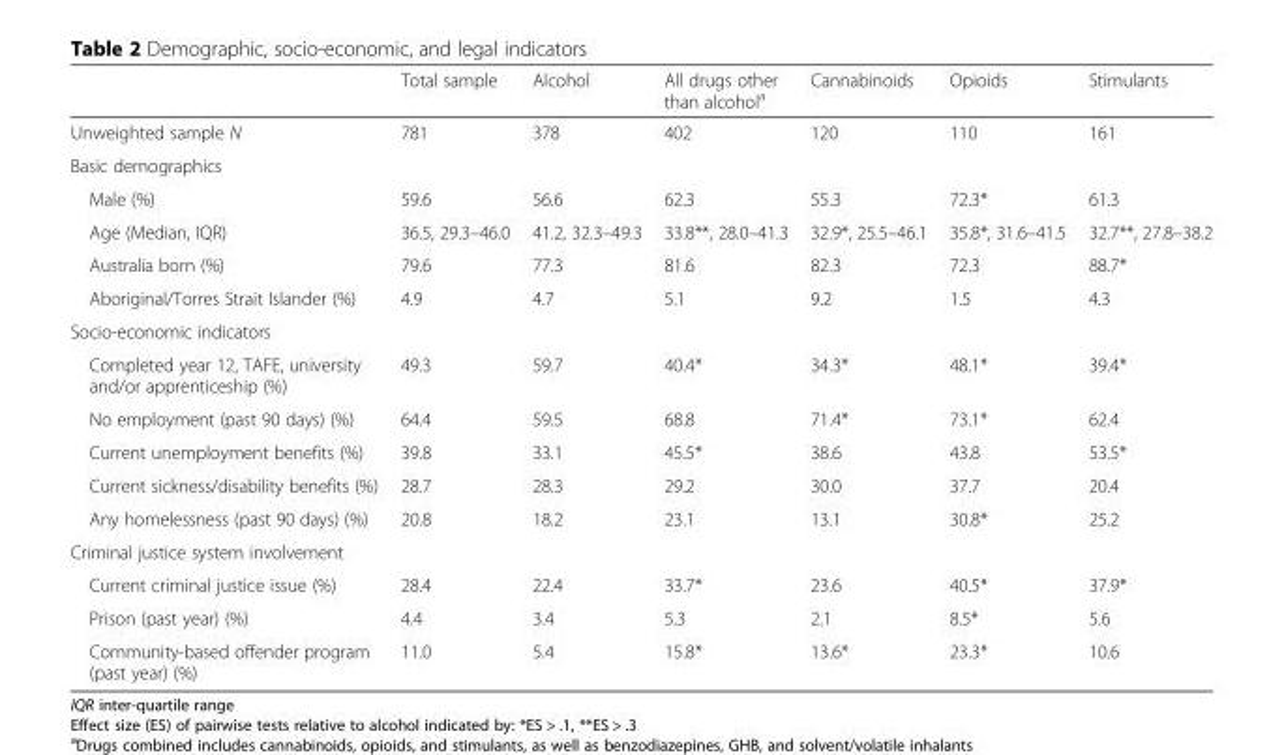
<table><thead><tr><td></td><td>Total sample</td><td>Alcohol</td><td>All drugs other than alcohol<sup>a</sup></td><td>Cannabinoids</td><td>Opioids</td><td>Stimulants</td></tr></thead><tbody><tr><td>Unweighted sample N</td><td>781</td><td>378</td><td>402</td><td>120</td><td>110</td><td>161</td></tr><tr><td colspan="7">Basic demographics</td></tr><tr><td>Male (%)</td><td>59.6</td><td>56.6</td><td>62.3</td><td>55.3</td><td>72.3*</td><td>61.3</td></tr><tr><td>Age (Median, IQR)</td><td>36.5, 29.3–46.0</td><td>41.2, 32.3–49.3</td><td>33.8**, 28.0–41.3</td><td>32.9*, 25.5–46.1</td><td>35.8*, 31.6–41.5</td><td>32.7**, 27.8–38.2</td></tr><tr><td>Australia born (%)</td><td>79.6</td><td>77.3</td><td>81.6</td><td>82.3</td><td>72.3</td><td>88.7*</td></tr><tr><td>Aboriginal/Torres Strait Islander (%)</td><td>4.9</td><td>4.7</td><td>5.1</td><td>9.2</td><td>1.5</td><td>4.3</td></tr><tr><td colspan="7">Socio-economic indicators</td></tr><tr><td>Completed year 12, TAFE, university and/or apprenticeship (%)</td><td>49.3</td><td>59.7</td><td>40.4*</td><td>34.3*</td><td>48.1*</td><td>39.4*</td></tr><tr><td>No employment (past 90 days) (%)</td><td>64.4</td><td>59.5</td><td>68.8</td><td>71.4*</td><td>73.1*</td><td>62.4</td></tr><tr><td>Current unemployment benefits (%)</td><td>39.8</td><td>33.1</td><td>45.5*</td><td>38.6</td><td>43.8</td><td>53.5*</td></tr><tr><td>Current sickness/disability benefits (%)</td><td>28.7</td><td>28.3</td><td>29.2</td><td>30.0</td><td>37.7</td><td>20.4</td></tr><tr><td>Any homelessness (past 90 days) (%)</td><td>20.8</td><td>18.2</td><td>23.1</td><td>13.1</td><td>30.8*</td><td>25.2</td></tr><tr><td colspan="7">Criminal justice system involvement</td></tr><tr><td>Current criminal justice issue (%)</td><td>28.4</td><td>22.4</td><td>33.7*</td><td>23.6</td><td>40.5*</td><td>37.9*</td></tr><tr><td>Prison (past year) (%)</td><td>4.4</td><td>3.4</td><td>5.3</td><td>2.1</td><td>8.5*</td><td>5.6</td></tr><tr><td>Community-based offender program (past year) (%)</td><td>11.0</td><td>5.4</td><td>15.8*</td><td>13.6*</td><td>23.3*</td><td>10.6</td></tr></tbody></table>